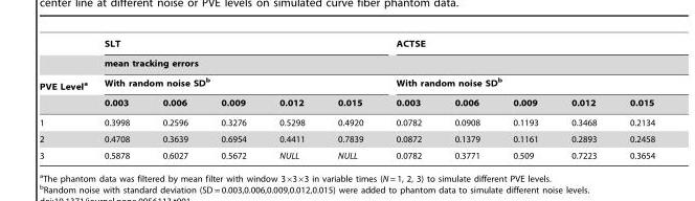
<table><thead><tr><td rowspan="4">PVE Level<sup>a</sup></td><td colspan="5">SLT</td><td colspan="5">ACTSE</td></tr><tr><td colspan="10">mean tracking errors</td></tr><tr><td colspan="5">With random noise SD<sup>b</sup></td><td colspan="5">With random noise SD<sup>b</sup></td></tr><tr><td>0.003</td><td>0.006</td><td>0.009</td><td>0.012</td><td>0.015</td><td>0.003</td><td>0.006</td><td>0.009</td><td>0.012</td><td>0.015</td></tr></thead><tbody><tr><td>1</td><td>0.3998</td><td>0.2596</td><td>0.3276</td><td>0.5298</td><td>0.4920</td><td>0.0782</td><td>0.0908</td><td>0.1193</td><td>0.3468</td><td>0.2134</td></tr><tr><td>2</td><td>0.4708</td><td>0.3639</td><td>0.6954</td><td>0.4411</td><td>0.7839</td><td>0.0872</td><td>0.1379</td><td>0.1161</td><td>0.2893</td><td>0.2458</td></tr><tr><td>3</td><td>0.5878</td><td>0.6027</td><td>0.5672</td><td>NULL</td><td>NULL</td><td>0.0782</td><td>0.3771</td><td>0.509</td><td>0.7223</td><td>0.3654</td></tr></tbody></table>